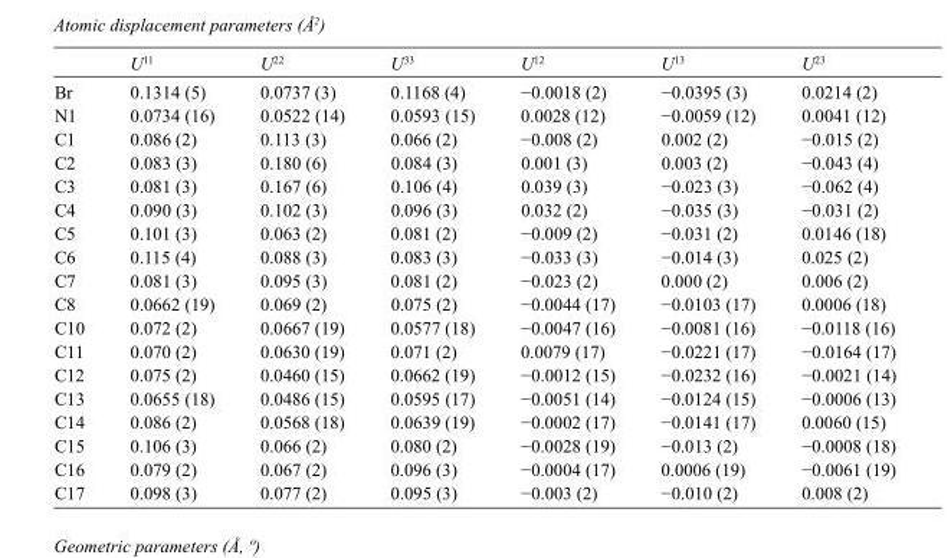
<table><thead><tr><td></td><td>U<sup>11</sup></td><td>U<sup>22</sup></td><td>U<sup>33</sup></td><td>U<sup>12</sup></td><td>U<sup>13</sup></td><td>U<sup>23</sup></td></tr></thead><tbody><tr><td>Br</td><td>0.1314 (5)</td><td>0.0737 (3)</td><td>0.1168 (4)</td><td>−0.0018 (2)</td><td>−0.0395 (3)</td><td>0.0214 (2)</td></tr><tr><td>N1</td><td>0.0734 (16)</td><td>0.0522 (14)</td><td>0.0593 (15)</td><td>0.0028 (12)</td><td>−0.0059 (12)</td><td>0.0041 (12)</td></tr><tr><td>C1</td><td>0.086 (2)</td><td>0.113 (3)</td><td>0.066 (2)</td><td>−0.008 (2)</td><td>0.002 (2)</td><td>−0.015 (2)</td></tr><tr><td>C2</td><td>0.083 (3)</td><td>0.180 (6)</td><td>0.084 (3)</td><td>0.001 (3)</td><td>0.003 (2)</td><td>−0.043 (4)</td></tr><tr><td>C3</td><td>0.081 (3)</td><td>0.167 (6)</td><td>0.106 (4)</td><td>0.039 (3)</td><td>−0.023 (3)</td><td>−0.062 (4)</td></tr><tr><td>C4</td><td>0.090 (3)</td><td>0.102 (3)</td><td>0.096 (3)</td><td>0.032 (2)</td><td>−0.035 (3)</td><td>−0.031 (2)</td></tr><tr><td>C5</td><td>0.101 (3)</td><td>0.063 (2)</td><td>0.081 (2)</td><td>−0.009 (2)</td><td>−0.031 (2)</td><td>0.0146 (18)</td></tr><tr><td>C6</td><td>0.115 (4)</td><td>0.088 (3)</td><td>0.083 (3)</td><td>−0.033 (3)</td><td>−0.014 (3)</td><td>0.025 (2)</td></tr><tr><td>C7</td><td>0.081 (3)</td><td>0.095 (3)</td><td>0.081 (2)</td><td>−0.023 (2)</td><td>0.000 (2)</td><td>0.006 (2)</td></tr><tr><td>C8</td><td>0.0662 (19)</td><td>0.069 (2)</td><td>0.075 (2)</td><td>−0.0044 (17)</td><td>−0.0103 (17)</td><td>0.0006 (18)</td></tr><tr><td>C10</td><td>0.072 (2)</td><td>0.0667 (19)</td><td>0.0577 (18)</td><td>−0.0047 (16)</td><td>−0.0081 (16)</td><td>−0.0118 (16)</td></tr><tr><td>C11</td><td>0.070 (2)</td><td>0.0630 (19)</td><td>0.071 (2)</td><td>0.0079 (17)</td><td>−0.0221 (17)</td><td>−0.0164 (17)</td></tr><tr><td>C12</td><td>0.075 (2)</td><td>0.0460 (15)</td><td>0.0662 (19)</td><td>−0.0012 (15)</td><td>−0.0232 (16)</td><td>−0.0021 (14)</td></tr><tr><td>C13</td><td>0.0655 (18)</td><td>0.0486 (15)</td><td>0.0595 (17)</td><td>−0.0051 (14)</td><td>−0.0124 (15)</td><td>−0.0006 (13)</td></tr><tr><td>C14</td><td>0.086 (2)</td><td>0.0568 (18)</td><td>0.0639 (19)</td><td>−0.0002 (17)</td><td>−0.0141 (17)</td><td>0.0060 (15)</td></tr><tr><td>C15</td><td>0.106 (3)</td><td>0.066 (2)</td><td>0.080 (2)</td><td>−0.0028 (19)</td><td>−0.013 (2)</td><td>−0.0008 (18)</td></tr><tr><td>C16</td><td>0.079 (2)</td><td>0.067 (2)</td><td>0.096 (3)</td><td>−0.0004 (17)</td><td>0.0006 (19)</td><td>−0.0061 (19)</td></tr><tr><td>C17</td><td>0.098 (3)</td><td>0.077 (2)</td><td>0.095 (3)</td><td>−0.003 (2)</td><td>−0.010 (2)</td><td>0.008 (2)</td></tr></tbody></table>